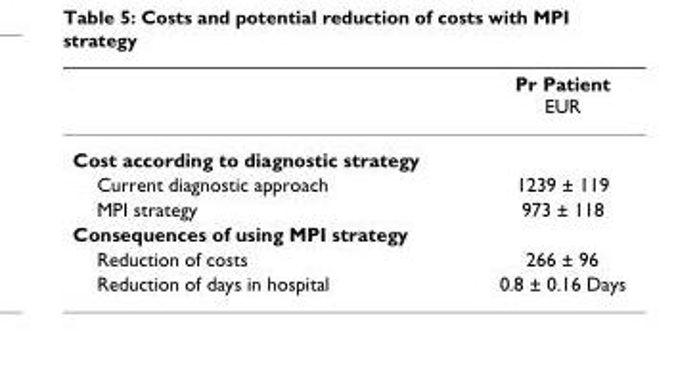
<table><thead><tr><td></td><td>Pr Patient EUR</td></tr></thead><tbody><tr><td colspan="2">Cost according to diagnostic strategy</td></tr><tr><td>Current diagnostic approach</td><td>1239 ± 119</td></tr><tr><td>MPI strategy</td><td>973 ± 118</td></tr><tr><td colspan="2">Consequences of using MPI strategy</td></tr><tr><td>Reduction of costs</td><td>266 ± 96</td></tr><tr><td>Reduction of days in hospital</td><td>0.8 ± 0.16 Days</td></tr></tbody></table>